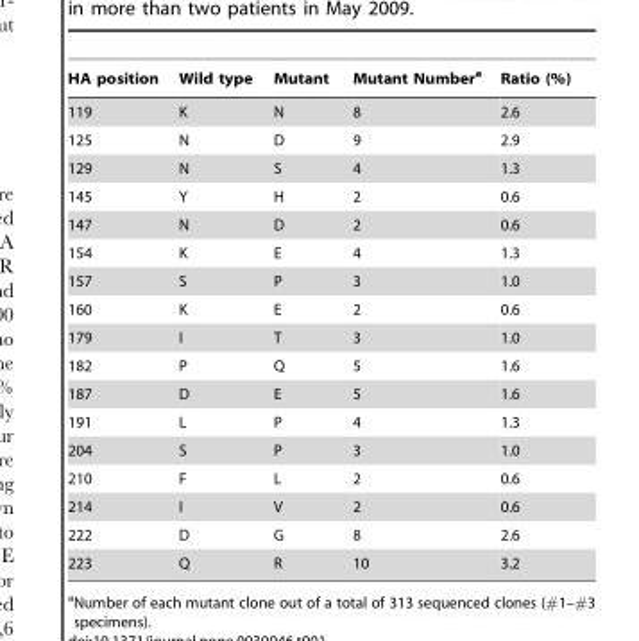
<table><thead><tr><td>HA position</td><td>Wild type</td><td>Mutant</td><td>Mutant Number<sup>a</sup></td><td>Ratio (%)</td></tr></thead><tbody><tr><td>119</td><td>K</td><td>N</td><td>8</td><td>2.6</td></tr><tr><td>125</td><td>N</td><td>D</td><td>9</td><td>2.9</td></tr><tr><td>129</td><td>N</td><td>S</td><td>4</td><td>1.3</td></tr><tr><td>145</td><td>Y</td><td>H</td><td>2</td><td>0.6</td></tr><tr><td>147</td><td>N</td><td>D</td><td>2</td><td>0.6</td></tr><tr><td>154</td><td>K</td><td>E</td><td>4</td><td>1.3</td></tr><tr><td>157</td><td>S</td><td>P</td><td>3</td><td>1.0</td></tr><tr><td>160</td><td>K</td><td>E</td><td>2</td><td>0.6</td></tr><tr><td>179</td><td>I</td><td>T</td><td>3</td><td>1.0</td></tr><tr><td>182</td><td>P</td><td>Q</td><td>5</td><td>1.6</td></tr><tr><td>187</td><td>D</td><td>E</td><td>5</td><td>1.6</td></tr><tr><td>191</td><td>L</td><td>P</td><td>4</td><td>1.3</td></tr><tr><td>204</td><td>S</td><td>P</td><td>3</td><td>1.0</td></tr><tr><td>210</td><td>F</td><td>L</td><td>2</td><td>0.6</td></tr><tr><td>214</td><td>I</td><td>V</td><td>2</td><td>0.6</td></tr><tr><td>222</td><td>D</td><td>G</td><td>8</td><td>2.6</td></tr><tr><td>223</td><td>Q</td><td>R</td><td>10</td><td>3.2</td></tr></tbody></table>